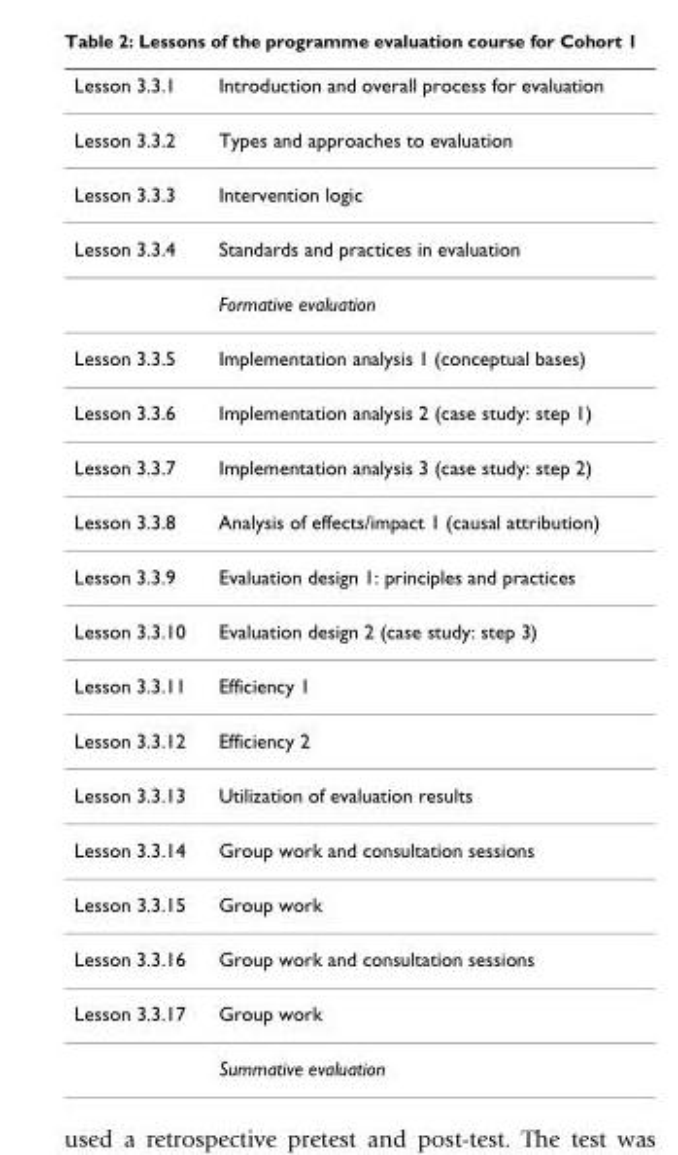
<table><thead><tr><td>Lesson 3.3.1</td><td>Introduction and overall process for evaluation</td></tr></thead><tbody><tr><td>Lesson 3.3.2</td><td>Types and approaches to evaluation</td></tr><tr><td>Lesson 3.3.3</td><td>Intervention logic</td></tr><tr><td rowspan="2">Lesson 3.3.4</td><td>Standards and practices in evaluation</td></tr><tr><td>Formative evaluation</td></tr><tr><td>Lesson 3.3.5</td><td>Implementation analysis 1 (conceptual bases)</td></tr><tr><td>Lesson 3.3.6</td><td>Implementation analysis 2 (case study: step 1)</td></tr><tr><td>Lesson 3.3.7</td><td>Implementation analysis 3 (case study: step 2)</td></tr><tr><td>Lesson 3.3.8</td><td>Analysis of effects/impact 1 (causal attribution)</td></tr><tr><td>Lesson 3.3.9</td><td>Evaluation design 1: principles and practices</td></tr><tr><td>Lesson 3.3.10</td><td>Evaluation design 2 (case study: step 3)</td></tr><tr><td>Lesson 3.3.11</td><td>Efficiency 1</td></tr><tr><td>Lesson 3.3.12</td><td>Efficiency 2</td></tr><tr><td>Lesson 3.3.13</td><td>Utilization of evaluation results</td></tr><tr><td>Lesson 3.3.14</td><td>Group work and consultation sessions</td></tr><tr><td>Lesson 3.3.15</td><td>Group work</td></tr><tr><td>Lesson 3.3.16</td><td>Group work and consultation sessions</td></tr><tr><td rowspan="2">Lesson 3.3.17</td><td>Group work</td></tr><tr><td>Summative evaluation</td></tr></tbody></table>